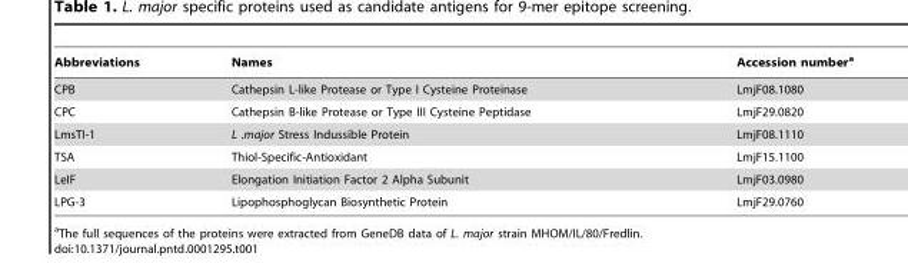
<table><thead><tr><td>Abbreviations</td><td>Names</td><td>Accession number<sup>a</sup></td></tr></thead><tbody><tr><td>CPB</td><td>Cathepsin L-like Protease or Type I Cysteine Proteinase</td><td>LmjF08.1080</td></tr><tr><td>CPC</td><td>Cathepsin B-like Protease or Type III Cysteine Peptidase</td><td>LmjF29.0820</td></tr><tr><td>LmsTI-1</td><td>L .major Stress Indussible Protein</td><td>LmjF08.1110</td></tr><tr><td>TSA</td><td>Thiol-Specific-Antioxidant</td><td>LmjF15.1100</td></tr><tr><td>LeIF</td><td>Elongation Initiation Factor 2 Alpha Subunit</td><td>LmjF03.0980</td></tr><tr><td>LPG-3</td><td>Lipophosphoglycan Biosynthetic Protein</td><td>LmjF29.0760</td></tr></tbody></table>